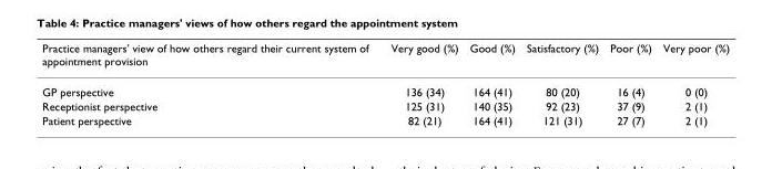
<table><thead><tr><td>Practice managers&#x27; view of how others regard their current system of appointment provision</td><td>Very good (%)</td><td>Good (%)</td><td>Satisfactory (%)</td><td>Poor (%)</td><td>Very poor (%)</td></tr></thead><tbody><tr><td>GP perspective</td><td>136 (34)</td><td>164 (41)</td><td>80 (20)</td><td>16 (4)</td><td>0 (0)</td></tr><tr><td>Receptionist perspective</td><td>125 (31)</td><td>140 (35)</td><td>92 (23)</td><td>37 (9)</td><td>2 (1)</td></tr><tr><td>Patient perspective</td><td>82 (21)</td><td>164 (41)</td><td>121 (31)</td><td>27 (7)</td><td>2 (1)</td></tr></tbody></table>